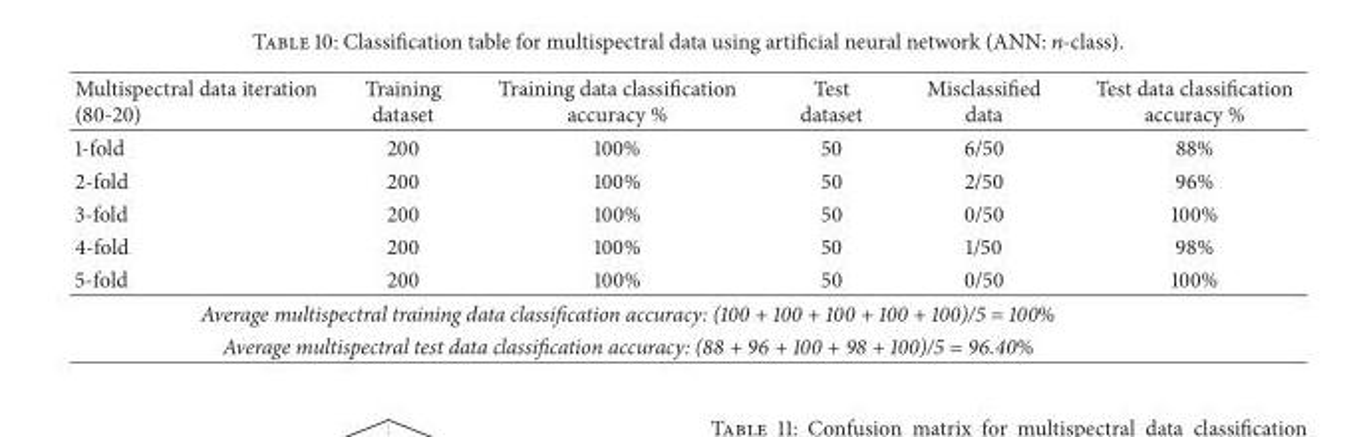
<table><thead><tr><td>Multispectral data iteration (80-20)</td><td>Training dataset</td><td>Training data classification accuracy %</td><td>Test dataset</td><td>Misclassified data</td><td>Test data classification accuracy %</td></tr></thead><tbody><tr><td>1-fold</td><td>200</td><td>100%</td><td>50</td><td>6/50</td><td>88%</td></tr><tr><td>2-fold</td><td>200</td><td>100%</td><td>50</td><td>2/50</td><td>96%</td></tr><tr><td>3-fold</td><td>200</td><td>100%</td><td>50</td><td>0/50</td><td>100%</td></tr><tr><td>4-fold</td><td>200</td><td>100%</td><td>50</td><td>1/50</td><td>98%</td></tr><tr><td>5-fold</td><td>200</td><td>100%</td><td>50</td><td>0/50</td><td>100%</td></tr><tr><td colspan="6">Average multispectral training data classification accuracy: (100 + 100 + 100 + 100 + 100)/5 = 100%</td></tr><tr><td colspan="6">Average multispectral test data classification accuracy: (88 + 96 + 100 + 98 + 100)/5 = 96.40%</td></tr></tbody></table>